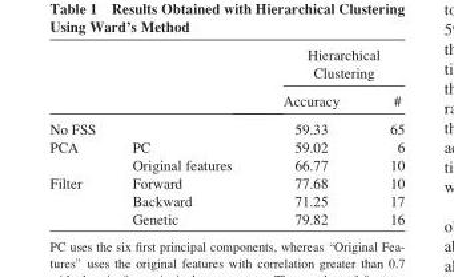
<table><thead><tr><td rowspan="2"></td><td rowspan="2"></td><td colspan="2">Hierarchical Clustering</td></tr><tr><td>Accuracy</td><td>#</td></tr></thead><tbody><tr><td colspan="2">No FSS</td><td>59.33</td><td>65</td></tr><tr><td rowspan="2">PCA</td><td>PC</td><td>59.02</td><td>6</td></tr><tr><td>Original features</td><td>66.77</td><td>10</td></tr><tr><td rowspan="3">Filter</td><td>Forward</td><td>77.68</td><td>10</td></tr><tr><td>Backward</td><td>71.25</td><td>17</td></tr><tr><td>Genetic</td><td>79.82</td><td>16</td></tr></tbody></table>